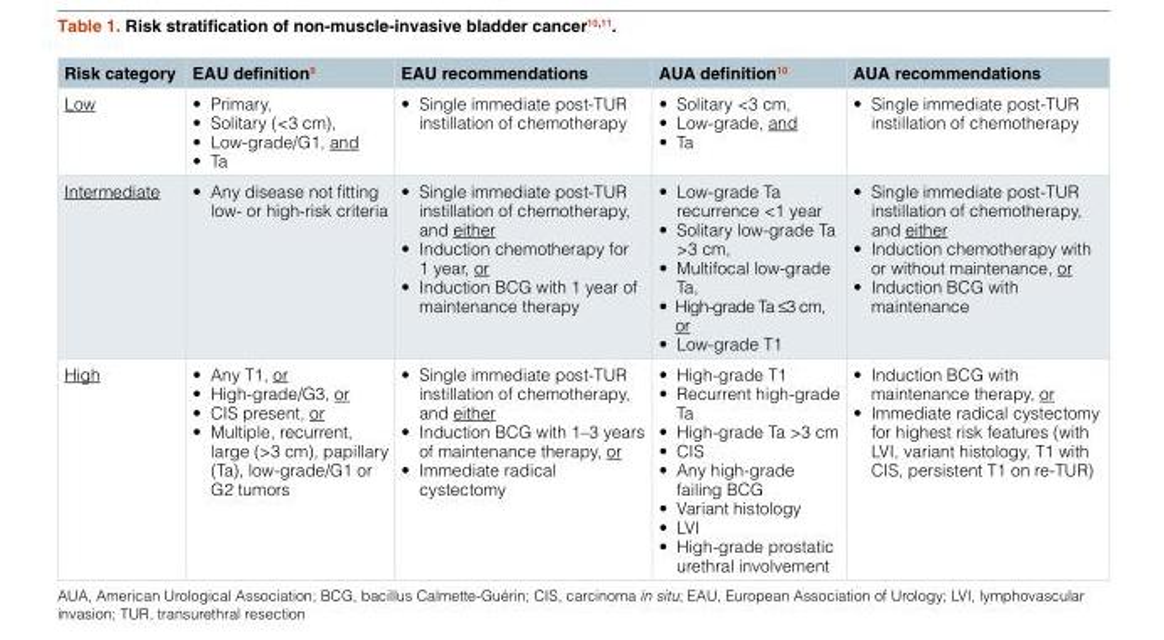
<table><thead><tr><td>Risk category</td><td>EAU definition<sup>9</sup></td><td>EAU recommendations</td><td>AUA definition<sup>10</sup></td><td>AUA recommendations</td></tr></thead><tbody><tr><td>Low</td><td>• Primary, • Solitary (&lt;3 cm), • Low-grade/G1, and • Ta</td><td>• Single immediate post-TUR instillation of chemotherapy</td><td>• Solitary &lt;3 cm, • Low-grade, and • Ta</td><td>• Single immediate post-TUR instillation of chemotherapy</td></tr><tr><td>Intermediate</td><td>• Any disease not fitting low- or high-risk criteria</td><td>• Single immediate post-TUR instillation of chemotherapy, and either • Induction chemotherapy for 1 year, or • Induction BCG with 1 year of maintenance therapy</td><td>• Low-grade Ta recurrence &lt;1 year • Solitary low-grade Ta &gt;3 cm, • Multifocal low-grade Ta, • High-grade Ta ≤3 cm, or • Low-grade T1</td><td>• Single immediate post-TUR instillation of chemotherapy, and either • Induction chemotherapy with or without maintenance, or • Induction BCG with maintenance</td></tr><tr><td>High</td><td>• Any T1, or • High-grade/G3, or • CIS present, or • Multiple, recurrent, large (&gt;3 cm), papillary (Ta), low-grade/G1 or G2 tumors</td><td>• Single immediate post-TUR instillation of chemotherapy, and either • Induction BCG with 1–3 years of maintenance therapy, or • Immediate radical cystectomy</td><td>• High-grade T1 • Recurrent high-grade Ta • High-grade Ta &gt;3 cm • CIS • Any high-grade failing BCG • Variant histology • LVI • High-grade prostatic urethral involvement</td><td>• Induction BCG with maintenance therapy, or • Immediate radical cystectomy for highest risk features (with LVI, variant histology, T1 with CIS, persistent T1 on re-TUR)</td></tr></tbody></table>